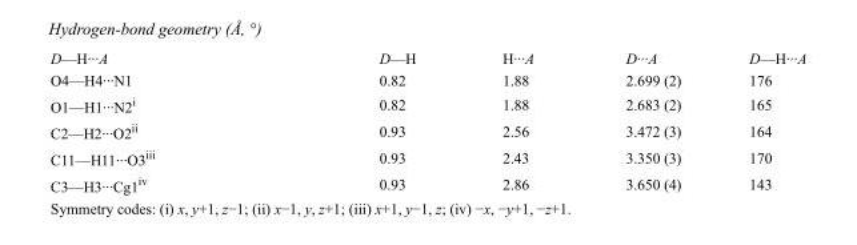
<table><tbody><tr><td>D—H···A</td><td>D—H</td><td>H···A</td><td>D···A</td><td>D—H···A</td></tr><tr><td>O4—H4···N1</td><td>0.82</td><td>1.88</td><td>2.699 (2)</td><td>176</td></tr><tr><td>O1—H1···N2<sup>i</sup></td><td>0.82</td><td>1.88</td><td>2.683 (2)</td><td>165</td></tr><tr><td>C2—H2···O2<sup>ii</sup></td><td>0.93</td><td>2.56</td><td>3.472 (3)</td><td>164</td></tr><tr><td>C11—H11···O3<sup>iii</sup></td><td>0.93</td><td>2.43</td><td>3.350 (3)</td><td>170</td></tr><tr><td>C3—H3···Cg1<sup>iv</sup></td><td>0.93</td><td>2.86</td><td>3.650 (4)</td><td>143</td></tr></tbody></table>